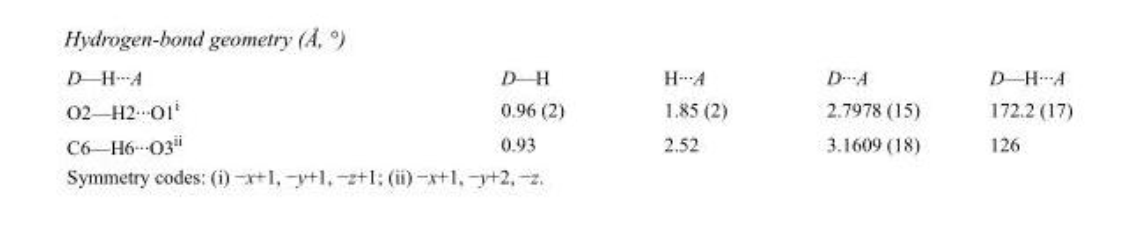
<table><tbody><tr><td>D—H···A</td><td>D—H</td><td>H···A</td><td>D···A</td><td>D—H···A</td></tr><tr><td>O2—H2···O1<sup>i</sup></td><td>0.96 (2)</td><td>1.85 (2)</td><td>2.7978 (15)</td><td>172.2 (17)</td></tr><tr><td>C6—H6···O3<sup>ii</sup></td><td>0.93</td><td>2.52</td><td>3.1609 (18)</td><td>126</td></tr></tbody></table>